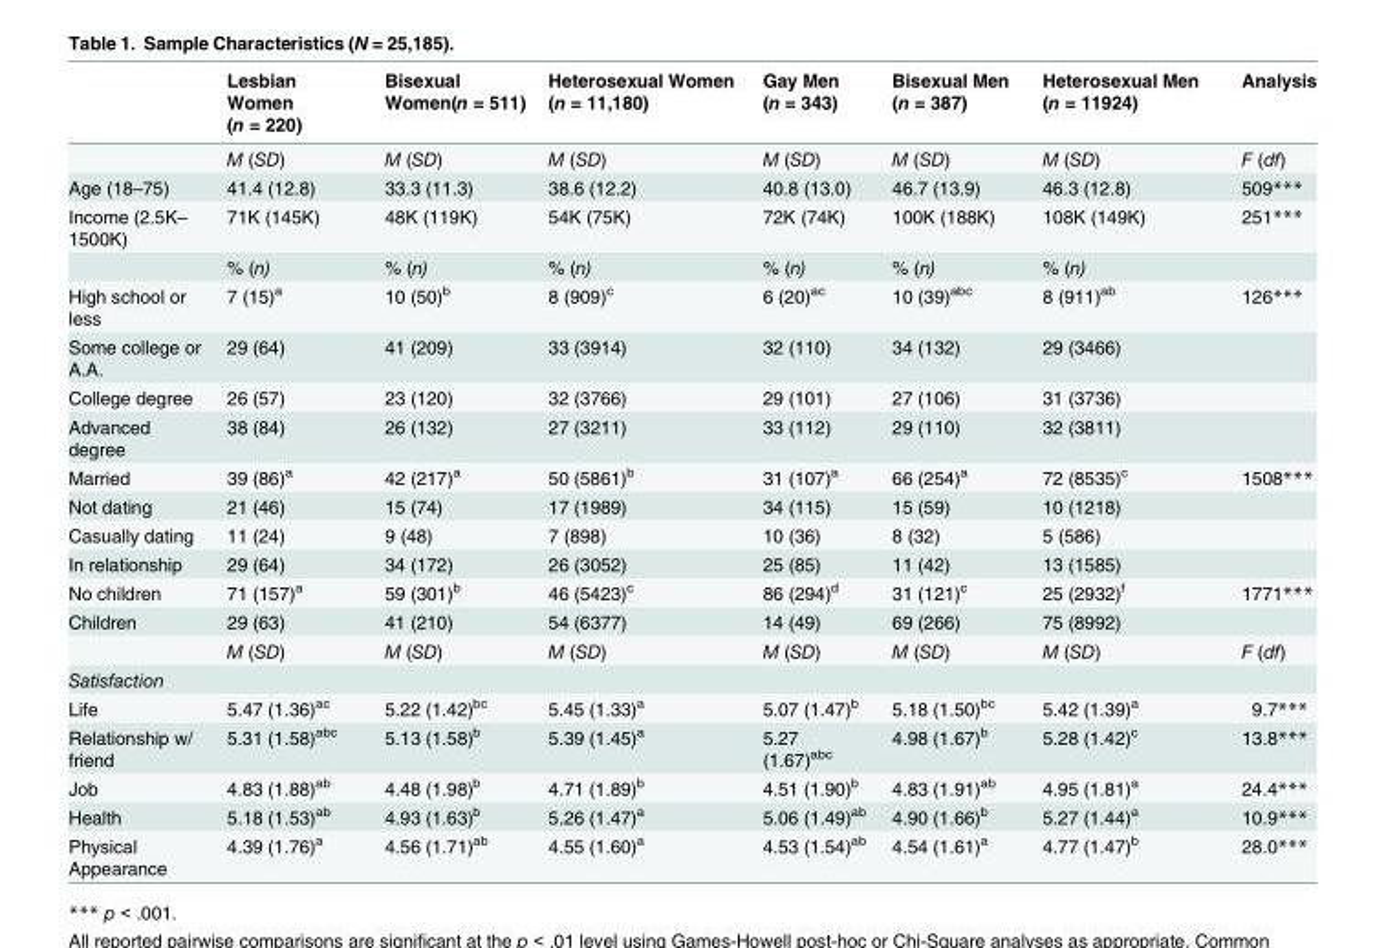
<table><thead><tr><td></td><td>Lesbian Women (n = 220)</td><td>Bisexual Women(n = 511)</td><td>Heterosexual Women (n = 11,180)</td><td>Gay Men (n = 343)</td><td>Bisexual Men (n = 387)</td><td>Heterosexual Men (n = 11924)</td><td>Analysis</td></tr></thead><tbody><tr><td></td><td>M (SD)</td><td>M (SD)</td><td>M (SD)</td><td>M (SD)</td><td>M (SD)</td><td>M (SD)</td><td>F (df)</td></tr><tr><td>Age (18–75)</td><td>41.4 (12.8)</td><td>33.3 (11.3)</td><td>38.6 (12.2)</td><td>40.8 (13.0)</td><td>46.7 (13.9)</td><td>46.3 (12.8)</td><td>509***</td></tr><tr><td rowspan="2">Income (2.5K– 1500K)</td><td>71K (145K)</td><td>48K (119K)</td><td>54K (75K)</td><td>72K (74K)</td><td>100K (188K)</td><td>108K (149K)</td><td>251***</td></tr><tr><td>% (n)</td><td>% (n)</td><td>% (n)</td><td>% (n)</td><td>% (n)</td><td>% (n)</td><td></td></tr><tr><td>High school or less</td><td>7 (15)<sup>a</sup></td><td>10 (50)<sup>b</sup></td><td>8 (909)<sup>c</sup></td><td>6 (20)<sup>ac</sup></td><td>10 (39)<sup>abc</sup></td><td>8 (911)<sup>ab</sup></td><td>126***</td></tr><tr><td>Some college or A.A.</td><td>29 (64)</td><td>41 (209)</td><td>33 (3914)</td><td>32 (110)</td><td>34 (132)</td><td>29 (3466)</td><td></td></tr><tr><td>College degree</td><td>26 (57)</td><td>23 (120)</td><td>32 (3766)</td><td>29 (101)</td><td>27 (106)</td><td>31 (3736)</td><td></td></tr><tr><td>Advanced degree</td><td>38 (84)</td><td>26 (132)</td><td>27 (3211)</td><td>33 (112)</td><td>29 (110)</td><td>32 (3811)</td><td></td></tr><tr><td>Married</td><td>39 (86)<sup>a</sup></td><td>42 (217)<sup>a</sup></td><td>50 (5861)<sup>b</sup></td><td>31 (107)<sup>a</sup></td><td>66 (254)<sup>a</sup></td><td>72 (8535)<sup>c</sup></td><td>1508***</td></tr><tr><td>Not dating</td><td>21 (46)</td><td>15 (74)</td><td>17 (1989)</td><td>34 (115)</td><td>15 (59)</td><td>10 (1218)</td><td></td></tr><tr><td>Casually dating</td><td>11 (24)</td><td>9 (48)</td><td>7 (898)</td><td>10 (36)</td><td>8 (32)</td><td>5 (586)</td><td></td></tr><tr><td>In relationship</td><td>29 (64)</td><td>34 (172)</td><td>26 (3052)</td><td>25 (85)</td><td>11 (42)</td><td>13 (1585)</td><td></td></tr><tr><td>No children</td><td>71 (157)<sup>a</sup></td><td>59 (301)<sup>b</sup></td><td>46 (5423)<sup>c</sup></td><td>86 (294)<sup>d</sup></td><td>31 (121)<sup>c</sup></td><td>25 (2932)<sup>f</sup></td><td>1771***</td></tr><tr><td rowspan="2">Children</td><td>29 (63)</td><td>41 (210)</td><td>54 (6377)</td><td>14 (49)</td><td>69 (266)</td><td>75 (8992)</td><td></td></tr><tr><td>M (SD)</td><td>M (SD)</td><td>M (SD)</td><td>M (SD)</td><td>M (SD)</td><td>M (SD)</td><td>F (df)</td></tr><tr><td colspan="8">Satisfaction</td></tr><tr><td>Life</td><td>5.47 (1.36)<sup>ac</sup></td><td>5.22 (1.42)<sup>bc</sup></td><td>5.45 (1.33)<sup>a</sup></td><td>5.07 (1.47)<sup>b</sup></td><td>5.18 (1.50)<sup>bc</sup></td><td>5.42 (1.39)<sup>a</sup></td><td>9.7***</td></tr><tr><td>Relationship w/ friend</td><td>5.31 (1.58)<sup>abc</sup></td><td>5.13 (1.58)<sup>b</sup></td><td>5.39 (1.45)<sup>a</sup></td><td>5.27 (1.67)<sup>abc</sup></td><td>4.98 (1.67)<sup>b</sup></td><td>5.28 (1.42)<sup>c</sup></td><td>13.8***</td></tr><tr><td>Job</td><td>4.83 (1.88)<sup>ab</sup></td><td>4.48 (1.98)<sup>b</sup></td><td>4.71 (1.89)<sup>b</sup></td><td>4.51 (1.90)<sup>b</sup></td><td>4.83 (1.91)<sup>ab</sup></td><td>4.95 (1.81)<sup>a</sup></td><td>24.4***</td></tr><tr><td>Health</td><td>5.18 (1.53)<sup>ab</sup></td><td>4.93 (1.63)<sup>b</sup></td><td>5.26 (1.47)<sup>a</sup></td><td>5.06 (1.49)<sup>ab</sup></td><td>4.90 (1.66)<sup>b</sup></td><td>5.27 (1.44)<sup>a</sup></td><td>10.9***</td></tr><tr><td>Physical Appearance</td><td>4.39 (1.76)<sup>a</sup></td><td>4.56 (1.71)<sup>ab</sup></td><td>4.55 (1.60)<sup>a</sup></td><td>4.53 (1.54)<sup>ab</sup></td><td>4.54 (1.61)<sup>a</sup></td><td>4.77 (1.47)<sup>b</sup></td><td>28.0***</td></tr></tbody></table>